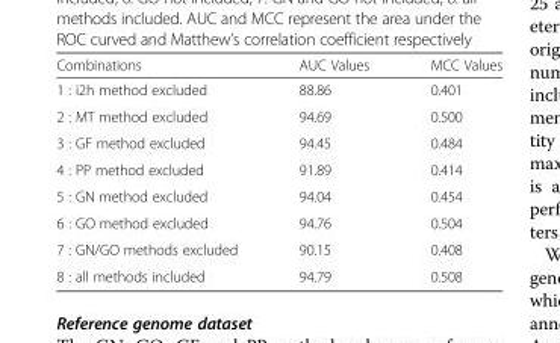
<table><thead><tr><td>Combinations</td><td>AUC Values</td><td>MCC Values</td></tr></thead><tbody><tr><td>1 : i2h method excluded</td><td>88.86</td><td>0.401</td></tr><tr><td>2 : MT method excluded</td><td>94.69</td><td>0.500</td></tr><tr><td>3 : GF method excluded</td><td>94.45</td><td>0.484</td></tr><tr><td>4 : PP method excluded</td><td>91.89</td><td>0.414</td></tr><tr><td>5 : GN method excluded</td><td>94.04</td><td>0.454</td></tr><tr><td>6 : GO method excluded</td><td>94.76</td><td>0.504</td></tr><tr><td>7 : GN/GO methods excluded</td><td>90.15</td><td>0.408</td></tr><tr><td>8 : all methods included</td><td>94.79</td><td>0.508</td></tr></tbody></table>